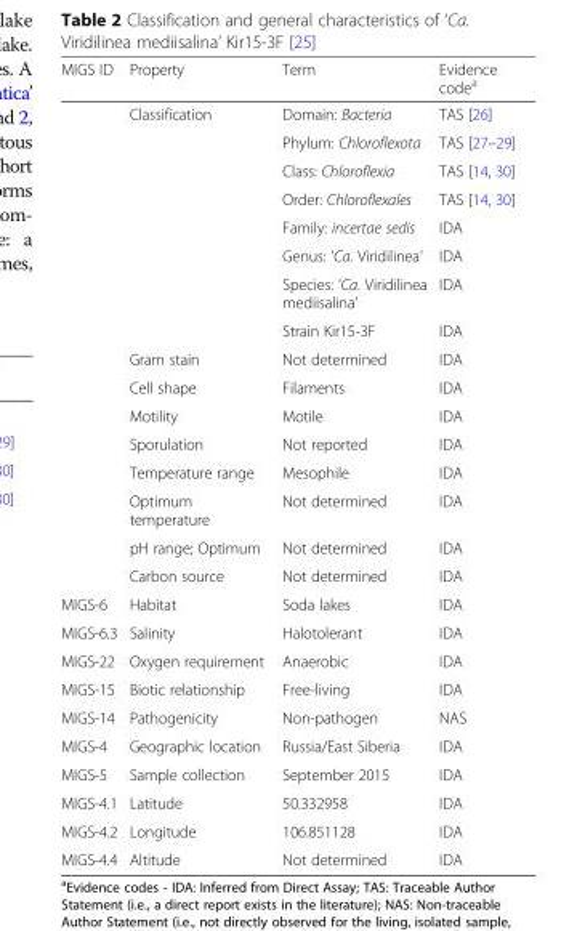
<table><thead><tr><td>MIGS ID</td><td>Property</td><td>Term</td><td>Evidence code<sup>a</sup></td></tr></thead><tbody><tr><td></td><td>Classification</td><td>Domain: Bacteria</td><td>TAS [26]</td></tr><tr><td></td><td></td><td>Phylum: Chloroflexota</td><td>TAS [27–29]</td></tr><tr><td></td><td></td><td>Class: Chloroflexia</td><td>TAS [14, 30]</td></tr><tr><td></td><td></td><td>Order: Chloroflexales</td><td>TAS [14, 30]</td></tr><tr><td></td><td></td><td>Family: incertae sedis</td><td>IDA</td></tr><tr><td></td><td></td><td>Genus: ‘Ca. Viridilinea’</td><td>IDA</td></tr><tr><td></td><td></td><td>Species: ‘Ca. Viridilinea mediisalina’</td><td>IDA</td></tr><tr><td></td><td></td><td>Strain Kir15-3F</td><td>IDA</td></tr><tr><td></td><td>Gram stain</td><td>Not determined</td><td>IDA</td></tr><tr><td></td><td>Cell shape</td><td>Filaments</td><td>IDA</td></tr><tr><td></td><td>Motility</td><td>Motile</td><td>IDA</td></tr><tr><td></td><td>Sporulation</td><td>Not reported</td><td>IDA</td></tr><tr><td></td><td>Temperature range</td><td>Mesophile</td><td>IDA</td></tr><tr><td></td><td>Optimum temperature</td><td>Not determined</td><td>IDA</td></tr><tr><td></td><td>pH range; Optimum</td><td>Not determined</td><td>IDA</td></tr><tr><td></td><td>Carbon source</td><td>Not determined</td><td>IDA</td></tr><tr><td>MIGS-6</td><td>Habitat</td><td>Soda lakes</td><td>IDA</td></tr><tr><td>MIGS-6.3</td><td>Salinity</td><td>Halotolerant</td><td>IDA</td></tr><tr><td>MIGS-22</td><td>Oxygen requirement</td><td>Anaerobic</td><td>IDA</td></tr><tr><td>MIGS-15</td><td>Biotic relationship</td><td>Free-living</td><td>IDA</td></tr><tr><td>MIGS-14</td><td>Pathogenicity</td><td>Non-pathogen</td><td>NAS</td></tr><tr><td>MIGS-4</td><td>Geographic location</td><td>Russia/East Siberia</td><td>IDA</td></tr><tr><td>MIGS-5</td><td>Sample collection</td><td>September 2015</td><td>IDA</td></tr><tr><td>MIGS-4.1</td><td>Latitude</td><td>50.332958</td><td>IDA</td></tr><tr><td>MIGS-4.2</td><td>Longitude</td><td>106.851128</td><td>IDA</td></tr><tr><td>MIGS-4.4</td><td>Altitude</td><td>Not determined</td><td>IDA</td></tr></tbody></table>